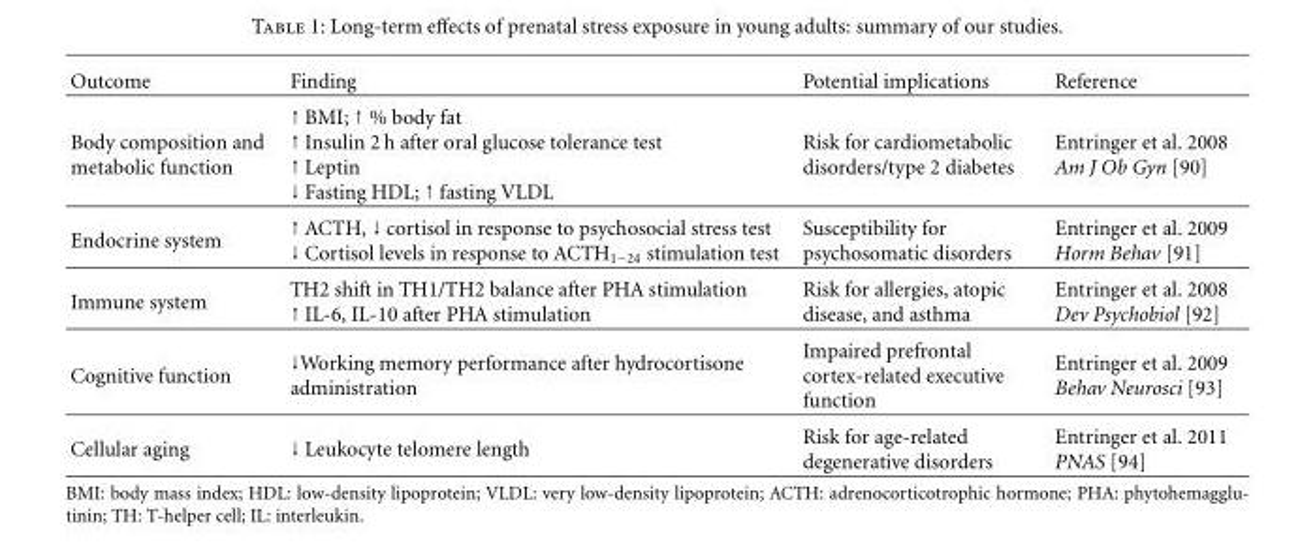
<table><thead><tr><td>Outcome</td><td>Finding</td><td>Potential implications</td><td>Reference</td></tr></thead><tbody><tr><td>Body composition and metabolic function</td><td>↑ BMI; ↑ % body fat ↑ Insulin 2 h after oral glucose tolerance test ↑ Leptin ↓ Fasting HDL; ↑ fasting VLDL</td><td>Risk for cardiometabolic disorders/type 2 diabetes</td><td>Entringer et al. 2008 Am J Ob Gyn [90]</td></tr><tr><td>Endocrine system</td><td>↑ ACTH, ↓ cortisol in response to psychosocial stress test ↓ Cortisol levels in response to ACTH<sub>1−24</sub> stimulation test</td><td>Susceptibility for psychosomatic disorders</td><td>Entringer et al. 2009 Horm Behav [91]</td></tr><tr><td>Immune system</td><td>TH2 shift in TH1/TH2 balance after PHA stimulation ↑ IL-6, IL-10 after PHA stimulation</td><td>Risk for allergies, atopic disease, and asthma</td><td>Entringer et al. 2008 Dev Psychobiol [92]</td></tr><tr><td>Cognitive function</td><td>↓Working memory performance after hydrocortisone administration</td><td>Impaired prefrontal cortex-related executive function</td><td>Entringer et al. 2009 Behav Neurosci [93]</td></tr><tr><td>Cellular aging</td><td>↓ Leukocyte telomere length</td><td>Risk for age-related degenerative disorders</td><td>Entringer et al. 2011 PNAS [94]</td></tr></tbody></table>